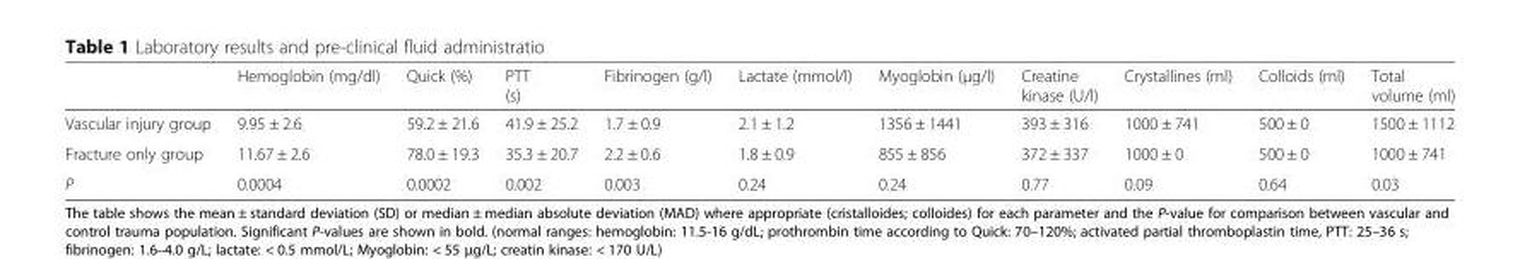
<table><thead><tr><td></td><td>Hemoglobin (mg/dl)</td><td>Quick (%)</td><td>PTT (s)</td><td>Fibrinogen (g/l)</td><td>Lactate (mmol/l)</td><td>Myoglobin (μg/l)</td><td>Creatine kinase (U/l)</td><td>Crystallines (ml)</td><td>Colloids (ml)</td><td>Total volume (ml)</td></tr></thead><tbody><tr><td>Vascular injury group</td><td>9.95 ± 2.6</td><td>59.2 ± 21.6</td><td>41.9 ± 25.2</td><td>1.7 ± 0.9</td><td>2.1 ± 1.2</td><td>1356 ± 1441</td><td>393 ± 316</td><td>1000 ± 741</td><td>500 ± 0</td><td>1500 ± 1112</td></tr><tr><td>Fracture only group</td><td>11.67 ± 2.6</td><td>78.0 ± 19.3</td><td>35.3 ± 20.7</td><td>2.2 ± 0.6</td><td>1.8 ± 0.9</td><td>855 ± 856</td><td>372 ± 337</td><td>1000 ± 0</td><td>500 ± 0</td><td>1000 ± 741</td></tr><tr><td>P</td><td>0.0004</td><td>0.0002</td><td>0.002</td><td>0.003</td><td>0.24</td><td>0.24</td><td>0.77</td><td>0.09</td><td>0.64</td><td>0.03</td></tr></tbody></table>